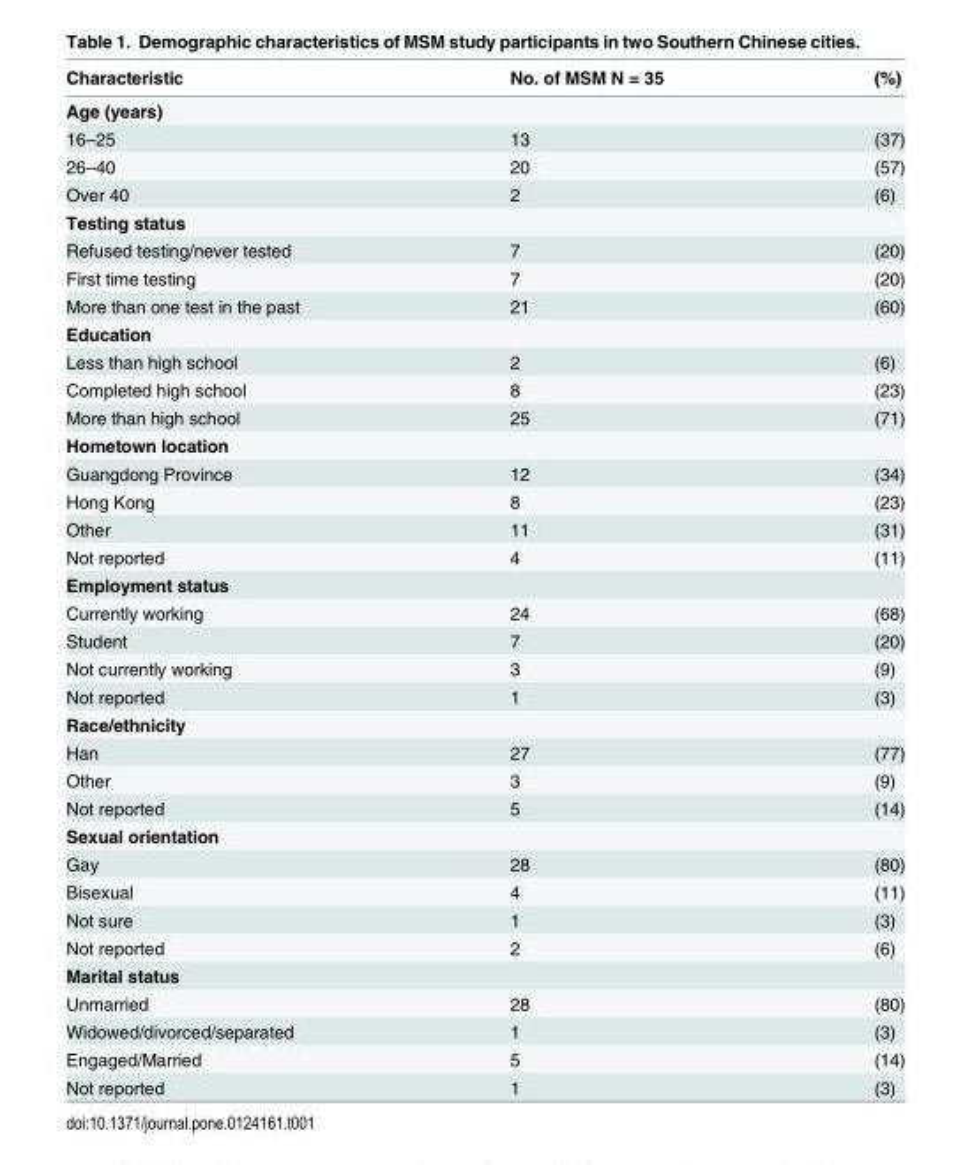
<table><thead><tr><td>Characteristic</td><td>No. of MSM N = 35</td><td>(%)</td></tr></thead><tbody><tr><td colspan="3">Age (years)</td></tr><tr><td>16–25</td><td>13</td><td>(37)</td></tr><tr><td>26–40</td><td>20</td><td>(57)</td></tr><tr><td>Over 40</td><td>2</td><td>(6)</td></tr><tr><td colspan="3">Testing status</td></tr><tr><td>Refused testing/never tested</td><td>7</td><td>(20)</td></tr><tr><td>First time testing</td><td>7</td><td>(20)</td></tr><tr><td>More than one test in the past</td><td>21</td><td>(60)</td></tr><tr><td colspan="3">Education</td></tr><tr><td>Less than high school</td><td>2</td><td>(6)</td></tr><tr><td>Completed high school</td><td>8</td><td>(23)</td></tr><tr><td>More than high school</td><td>25</td><td>(71)</td></tr><tr><td colspan="3">Hometown location</td></tr><tr><td>Guangdong Province</td><td>12</td><td>(34)</td></tr><tr><td>Hong Kong</td><td>8</td><td>(23)</td></tr><tr><td>Other</td><td>11</td><td>(31)</td></tr><tr><td>Not reported</td><td>4</td><td>(11)</td></tr><tr><td colspan="3">Employment status</td></tr><tr><td>Currently working</td><td>24</td><td>(68)</td></tr><tr><td>Student</td><td>7</td><td>(20)</td></tr><tr><td>Not currently working</td><td>3</td><td>(9)</td></tr><tr><td>Not reported</td><td>1</td><td>(3)</td></tr><tr><td colspan="3">Race/ethnicity</td></tr><tr><td>Han</td><td>27</td><td>(77)</td></tr><tr><td>Other</td><td>3</td><td>(9)</td></tr><tr><td>Not reported</td><td>5</td><td>(14)</td></tr><tr><td colspan="3">Sexual orientation</td></tr><tr><td>Gay</td><td>28</td><td>(80)</td></tr><tr><td>Bisexual</td><td>4</td><td>(11)</td></tr><tr><td>Not sure</td><td>1</td><td>(3)</td></tr><tr><td>Not reported</td><td>2</td><td>(6)</td></tr><tr><td colspan="3">Marital status</td></tr><tr><td>Unmarried</td><td>28</td><td>(80)</td></tr><tr><td>Widowed/divorced/separated</td><td>1</td><td>(3)</td></tr><tr><td>Engaged/Married</td><td>5</td><td>(14)</td></tr><tr><td>Not reported</td><td>1</td><td>(3)</td></tr></tbody></table>